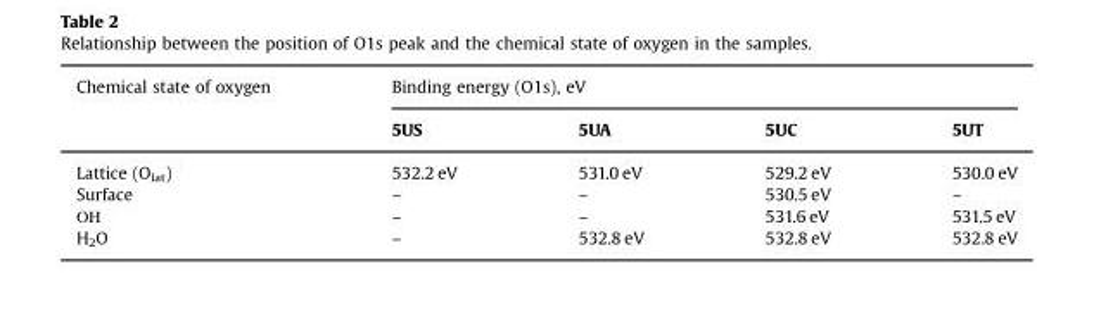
<table><thead><tr><td rowspan="2">Chemical state of oxygen</td><td colspan="4">Binding energy (O1s), eV</td></tr><tr><td>5US</td><td>5UA</td><td>5UC</td><td>5UT</td></tr></thead><tbody><tr><td>Lattice (O<sub>lat</sub>)</td><td>532.2 eV</td><td>531.0 eV</td><td>529.2 eV</td><td>530.0 eV</td></tr><tr><td>Surface</td><td>–</td><td>–</td><td>530.5 eV</td><td>–</td></tr><tr><td>ОН</td><td>–</td><td>–</td><td>531.6 eV</td><td>531.5 eV</td></tr><tr><td>H<sub>2</sub>O</td><td>–</td><td>532.8 eV</td><td>532.8 eV</td><td>532.8 eV</td></tr></tbody></table>